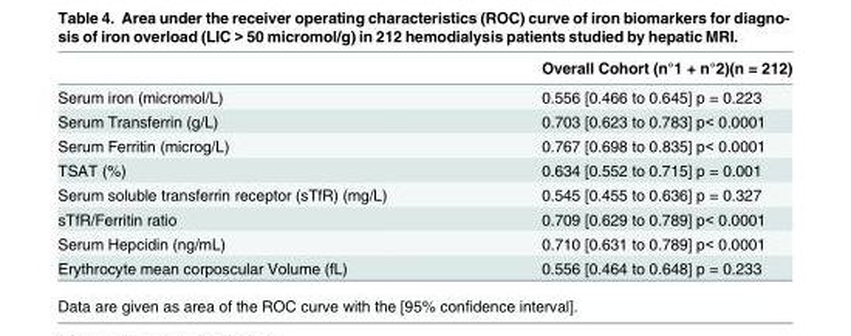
<table><thead><tr><td></td><td>Overall Cohort (n°1 + n°2)(n = 212)</td></tr></thead><tbody><tr><td>Serum iron (micromol/L)</td><td>0.556 [0.466 to 0.645] p = 0.223</td></tr><tr><td>Serum Transferrin (g/L)</td><td>0.703 [0.623 to 0.783] p&lt; 0.0001</td></tr><tr><td>Serum Ferritin (microg/L)</td><td>0.767 [0.698 to 0.835] p&lt; 0.0001</td></tr><tr><td>TSAT (%)</td><td>0.634 [0.552 to 0.715] p = 0.001</td></tr><tr><td>Serum soluble transferrin receptor (sTfR) (mg/L)</td><td>0.545 [0.455 to 0.636] p = 0.327</td></tr><tr><td>sTfR/Ferritin ratio</td><td>0.709 [0.629 to 0.789] p&lt; 0.0001</td></tr><tr><td>Serum Hepcidin (ng/mL)</td><td>0.710 [0.631 to 0.789] p&lt; 0.0001</td></tr><tr><td>Erythrocyte mean corposcular Volume (fL)</td><td>0.556 [0.464 to 0.648] p = 0.233</td></tr></tbody></table>